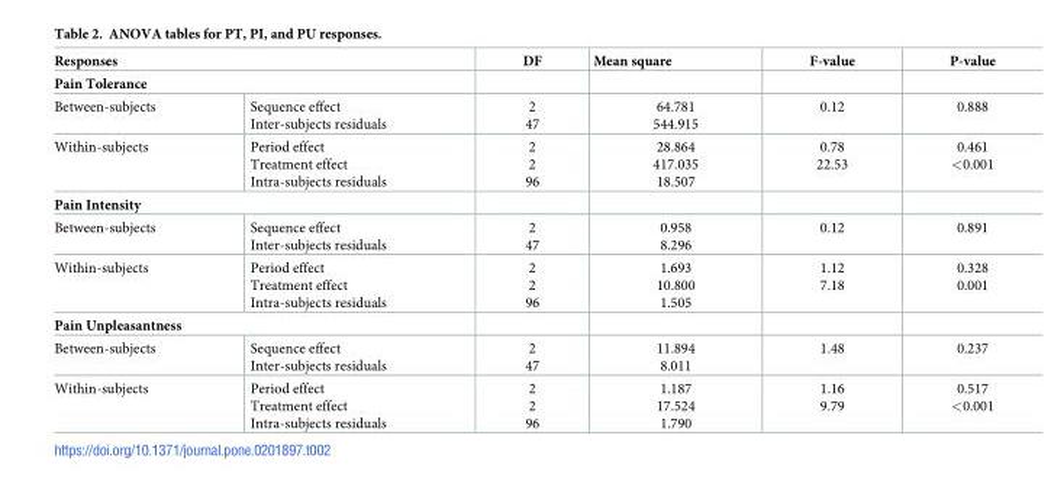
<table><thead><tr><td rowspan="2" colspan="2">Responses Pain Tolerance</td><td rowspan="3">DF 2 47</td><td rowspan="3">Mean square 64.781 544.915</td><td rowspan="3">F-value 0.12</td><td rowspan="3">P-value 0.888</td></tr><tr></tr><tr><td>Between-subjects</td><td>Sequence effect Inter-subjects residuals</td></tr></thead><tbody><tr><td>Within-subjects</td><td>Period effect Treatment effect Intra-subjects residuals</td><td>2 2 96</td><td>28.864 417.035 18.507</td><td>0.78 22.53</td><td>0.461 &lt;0.001</td></tr><tr><td colspan="6">Pain Intensity</td></tr><tr><td>Between-subjects</td><td>Sequence effect Inter-subjects residuals</td><td>2 47</td><td>0.958 8.296</td><td>0.12</td><td>0.891</td></tr><tr><td>Within-subjects</td><td>Period effect Treatment effect Intra-subjects residuals</td><td>2 2 96</td><td>1.693 10.800 1.505</td><td>1.12 7.18</td><td>0.328 0.001</td></tr><tr><td colspan="6">Pain Unpleasantness</td></tr><tr><td>Between-subjects</td><td>Sequence effect Inter-subjects residuals</td><td>2 47</td><td>11.894 8.011</td><td>1.48</td><td>0.237</td></tr><tr><td>Within-subjects</td><td>Period effect Treatment effect Intra-subjects residuals</td><td>2 2 96</td><td>1.187 17.524 1.790</td><td>1.16 9.79</td><td>0.517 &lt;0.001</td></tr></tbody></table>